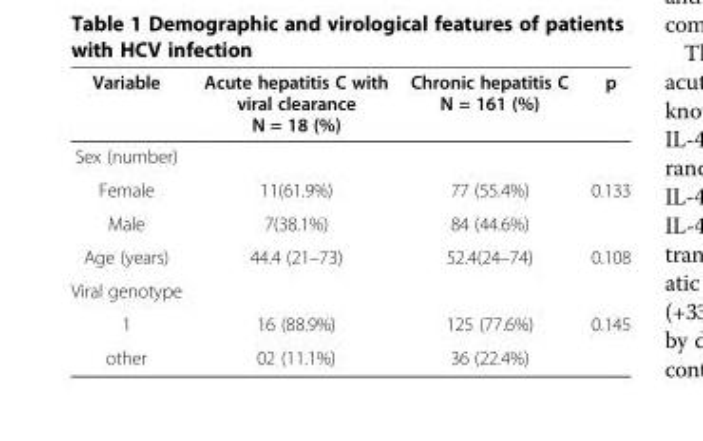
<table><thead><tr><td>Variable</td><td>Acute hepatitis C with viral clearance N = 18 (%)</td><td>Chronic hepatitis C N = 161 (%)</td><td>p</td></tr></thead><tbody><tr><td colspan="4">Sex (number)</td></tr><tr><td>Female</td><td>11(61.9%)</td><td>77 (55.4%)</td><td>0.133</td></tr><tr><td>Male</td><td>7(38.1%)</td><td>84 (44.6%)</td><td></td></tr><tr><td>Age (years)</td><td>44.4 (21–73)</td><td>52.4(24–74)</td><td>0.108</td></tr><tr><td colspan="4">Viral genotype</td></tr><tr><td>1</td><td>16 (88.9%)</td><td>125 (77.6%)</td><td>0.145</td></tr><tr><td>other</td><td>02 (11.1%)</td><td>36 (22.4%)</td><td></td></tr></tbody></table>